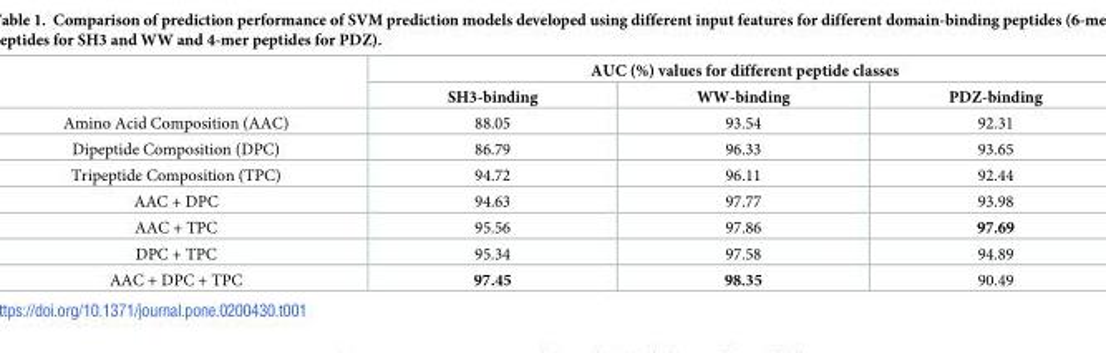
<table><thead><tr><td rowspan="2"></td><td colspan="3">AUC (%) values for different peptide classes</td></tr><tr><td>SH3-binding</td><td>WW-binding</td><td>PDZ-binding</td></tr></thead><tbody><tr><td>Amino Acid Composition (AAC)</td><td>88.05</td><td>93.54</td><td>92.31</td></tr><tr><td>Dipeptide Composition (DPC)</td><td>86.79</td><td>96.33</td><td>93.65</td></tr><tr><td>Tripeptide Composition (TPC)</td><td>94.72</td><td>96.11</td><td>92.44</td></tr><tr><td>AAC + DPC</td><td>94.63</td><td>97.77</td><td>93.98</td></tr><tr><td>AAC + TPC</td><td>95.56</td><td>97.86</td><td>97.69</td></tr><tr><td>DPC + TPC</td><td>95.34</td><td>97.58</td><td>94.89</td></tr><tr><td>AAC + DPC + TPC</td><td>97.45</td><td>98.35</td><td>90.49</td></tr></tbody></table>